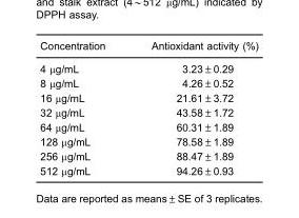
<table><thead><tr><td>Concentration</td><td>Antioxidant activity (%)</td></tr></thead><tbody><tr><td>4 μg/mL</td><td>3.23±0.29</td></tr><tr><td>8 μg/mL</td><td>4.26±0.52</td></tr><tr><td>16 μg/mL</td><td>21.61±3.72</td></tr><tr><td>32 μg/mL</td><td>43.58±1.72</td></tr><tr><td>64 μg/mL</td><td>60.31±1.89</td></tr><tr><td>128 μg/mL</td><td>78.58±1.89</td></tr><tr><td>256 μg/mL</td><td>88.47±1.89</td></tr><tr><td>512 μg/mL</td><td>94.26±0.93</td></tr></tbody></table>